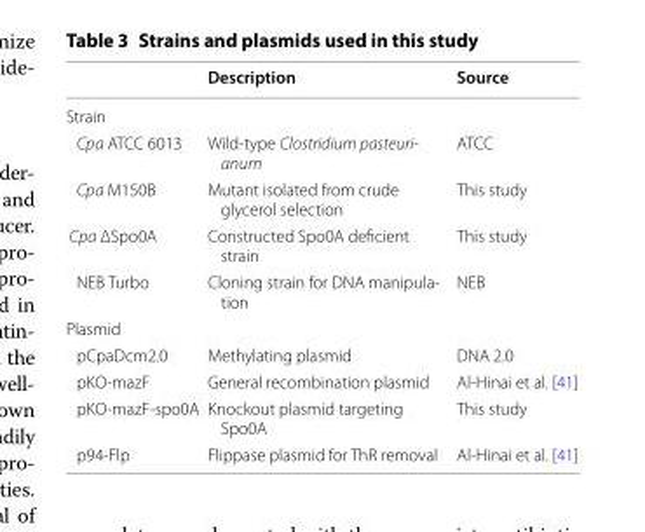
<table><thead><tr><td></td><td>Description</td><td>Source</td></tr></thead><tbody><tr><td colspan="3">Strain</td></tr><tr><td>Cpa ATCC 6013</td><td>Wild-type Clostridium pasteuri- anum</td><td>ATCC</td></tr><tr><td>Cpa M150B</td><td>Mutant isolated from crude glycerol selection</td><td>This study</td></tr><tr><td>Cpa ΔSpo0A</td><td>Constructed Spo0A deficient strain</td><td>This study</td></tr><tr><td>NEB Turbo</td><td>Cloning strain for DNA manipula- tion</td><td>NEB</td></tr><tr><td colspan="3">Plasmid</td></tr><tr><td>pCpaDcm2.0</td><td>Methylating plasmid</td><td>DNA 2.0</td></tr><tr><td>pKO-mazF</td><td>General recombination plasmid</td><td>Al-Hinai et al. [41]</td></tr><tr><td>pKO-mazF-spo0A</td><td>Knockout plasmid targeting Spo0A</td><td>This study</td></tr><tr><td>p94-Flp</td><td>Flippase plasmid for ThR removal</td><td>Al-Hinai et al. [41]</td></tr></tbody></table>